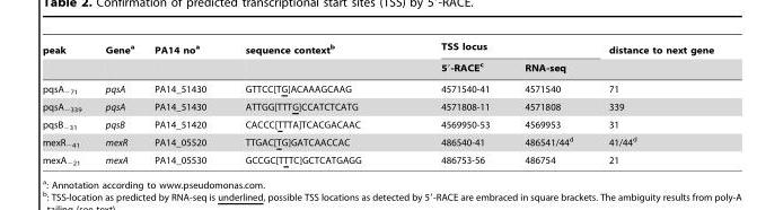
<table><thead><tr><td rowspan="2">peak</td><td rowspan="2">Gene<sup>a</sup></td><td rowspan="2">PA14 no<sup>a</sup></td><td rowspan="2">sequence context<sup>b</sup></td><td colspan="2">TSS locus</td><td rowspan="2">distance to next gene</td></tr><tr><td>5′-RACE<sup>c</sup></td><td>RNA-seq</td></tr></thead><tbody><tr><td>pqsA<sub>−71</sub></td><td>pqsA</td><td>PA14_51430</td><td>GTTCC[TG]ACAAAGCAAG</td><td>4571540-41</td><td>4571540</td><td>71</td></tr><tr><td>pqsA<sub>−339</sub></td><td>pqsA</td><td>PA14_51430</td><td>ATTGG[TTTG]CCATCTCATG</td><td>4571808-11</td><td>4571808</td><td>339</td></tr><tr><td>pqsB<sub>−31</sub></td><td>pqsB</td><td>PA14_51420</td><td>CACCC[TTTA]TCACGACAAC</td><td>4569950-53</td><td>4569953</td><td>31</td></tr><tr><td>mexR<sub>−41</sub></td><td>mexR</td><td>PA14_05520</td><td>TTGAC[TG]GATCAACCAC</td><td>486540-41</td><td>486541/44<sup>d</sup></td><td>41/44<sup>d</sup></td></tr><tr><td>mexA<sub>−21</sub></td><td>mexA</td><td>PA14_05530</td><td>GCCGC[TTTC]GCTCATGAGG</td><td>486753-56</td><td>486754</td><td>21</td></tr></tbody></table>